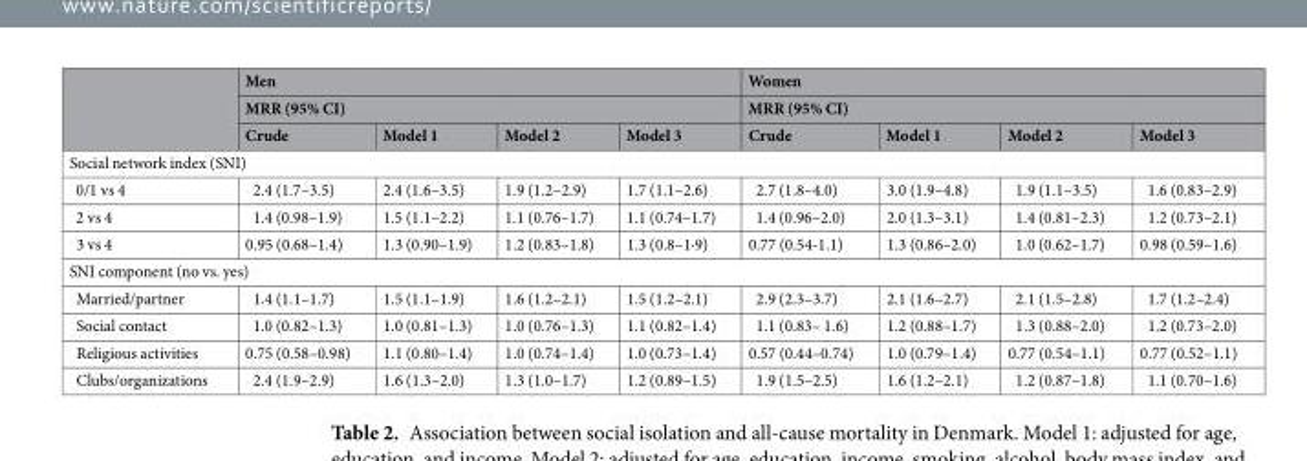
<table><thead><tr><td rowspan="3"></td><td rowspan="2" colspan="4">Men MRR (95% CI)</td><td rowspan="2" colspan="4">Women MRR (95% CI)</td></tr><tr></tr><tr><td>Crude</td><td>Model 1</td><td>Model 2</td><td>Model 3</td><td>Crude</td><td>Model 1</td><td>Model 2</td><td>Model 3</td></tr></thead><tbody><tr><td colspan="9">Social network index (SNI)</td></tr><tr><td>0/1 vs 4</td><td>2.4 (1.7–3.5)</td><td>2.4 (1.6–3.5)</td><td>1.9 (1.2–2.9)</td><td>1.7 (1.1–2.6)</td><td>2.7 (1.8–4.0)</td><td>3.0 (1.9–4.8)</td><td>1.9 (1.1–3.5)</td><td>1.6 (0.83–2.9)</td></tr><tr><td>2 vs 4</td><td>1.4 (0.98–1.9)</td><td>1.5 (1.1–2.2)</td><td>1.1 (0.76–1.7)</td><td>1.1 (0.74–1.7)</td><td>1.4 (0.96–2.0)</td><td>2.0 (1.3–3.1)</td><td>1.4 (0.81–2.3)</td><td>1.2 (0.73–2.1)</td></tr><tr><td>3 vs 4</td><td>0.95 (0.68–1.4)</td><td>1.3 (0.90–1.9)</td><td>1.2 (0.83–1.8)</td><td>1.3 (0.8–1·9)</td><td>0.77 (0.54-1.1)</td><td>1.3 (0.86–2.0)</td><td>1.0 (0.62–1.7)</td><td>0.98 (0.59–1.6)</td></tr><tr><td colspan="9">SNI component (no vs. yes)</td></tr><tr><td>Married/partner</td><td>1.4 (1.1–1.7)</td><td>1.5 (1.1–1.9)</td><td>1.6 (1.2–2.1)</td><td>1.5 (1.2–2.1)</td><td>2.9 (2.3–3.7)</td><td>2.1 (1.6–2.7)</td><td>2.1 (1.5–2.8)</td><td>1.7 (1.2–2.4)</td></tr><tr><td>Social contact</td><td>1.0 (0.82–1.3)</td><td>1.0 (0.81–1.3)</td><td>1.0 (0.76–1.3)</td><td>1.1 (0.82–1.4)</td><td>1.1 (0.83– 1.6)</td><td>1.2 (0.88–1.7)</td><td>1.3 (0.88–2.0)</td><td>1.2 (0.73–2.0)</td></tr><tr><td>Religious activities</td><td>0.75 (0.58–0.98)</td><td>1.1 (0.80–1.4)</td><td>1.0 (0.74–1.4)</td><td>1.0 (0.73–1.4)</td><td>0.57 (0.44–0.74)</td><td>1.0 (0.79–1.4)</td><td>0.77 (0.54–1.1)</td><td>0.77 (0.52–1.1)</td></tr><tr><td>Clubs/organizations</td><td>2.4 (1.9–2.9)</td><td>1.6 (1.3–2.0)</td><td>1.3 (1.0–1.7)</td><td>1.2 (0.89–1.5)</td><td>1.9 (1.5–2.5)</td><td>1.6 (1.2–2.1)</td><td>1.2 (0.87–1.8)</td><td>1.1 (0.70–1.6)</td></tr></tbody></table>